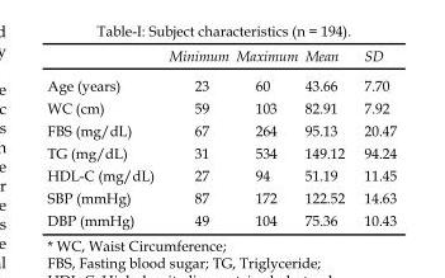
<table><thead><tr><td></td><td>Minimum</td><td>Maximum</td><td>Mean</td><td>SD</td></tr></thead><tbody><tr><td>Age (years)</td><td>23</td><td>60</td><td>43.66</td><td>7.70</td></tr><tr><td>WC (cm)</td><td>59</td><td>103</td><td>82.91</td><td>7.92</td></tr><tr><td>FBS (mg/dL)</td><td>67</td><td>264</td><td>95.13</td><td>20.47</td></tr><tr><td>TG (mg/dL)</td><td>31</td><td>534</td><td>149.12</td><td>94.24</td></tr><tr><td>HDL-C (mg/dL)</td><td>27</td><td>94</td><td>51.19</td><td>11.45</td></tr><tr><td>SBP (mmHg)</td><td>87</td><td>172</td><td>122.52</td><td>14.63</td></tr><tr><td>DBP (mmHg)</td><td>49</td><td>104</td><td>75.36</td><td>10.43</td></tr></tbody></table>